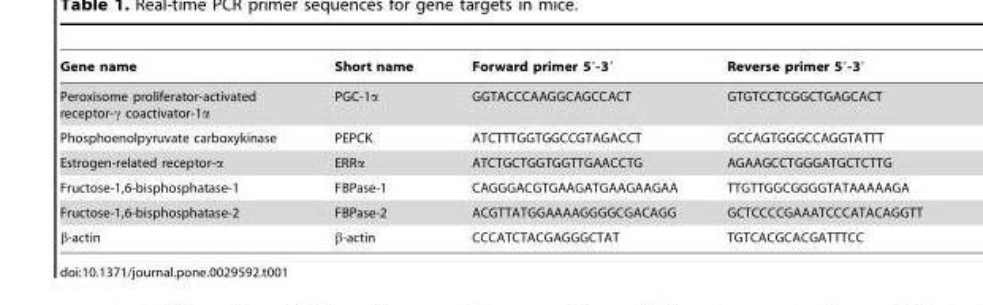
<table><thead><tr><td>Gene name</td><td>Short name</td><td>Forward primer 5′-3′</td><td>Reverse primer 5′-3′</td></tr></thead><tbody><tr><td>Peroxisome proliferator-activated receptor-γ coactivator-1α</td><td>PGC-1α</td><td>GGTACCCAAGGCAGCCACT</td><td>GTGTCCTCGGCTGAGCACT</td></tr><tr><td>Phosphoenolpyruvate carboxykinase</td><td>PEPCK</td><td>ATCTTTGGTGGCCGTAGACCT</td><td>GCCAGTGGGCCAGGTATTT</td></tr><tr><td>Estrogen-related receptor-α</td><td>ERRα</td><td>ATCTGCTGGTGGTTGAACCTG</td><td>AGAAGCCTGGGATGCTCTTG</td></tr><tr><td>Fructose-1,6-bisphosphatase-1</td><td>FBPase-1</td><td>CAGGGACGTGAAGATGAAGAAGAA</td><td>TTGTTGGCGGGGTATAAAAAGA</td></tr><tr><td>Fructose-1,6-bisphosphatase-2</td><td>FBPase-2</td><td>ACGTTATGGAAAAGGGGCGACAGG</td><td>GCTCCCCGAAATCCCATACAGGTT</td></tr><tr><td>β-actin</td><td>β-actin</td><td>CCCATCTACGAGGGCTAT</td><td>TGTCACGCACGATTTCC</td></tr></tbody></table>